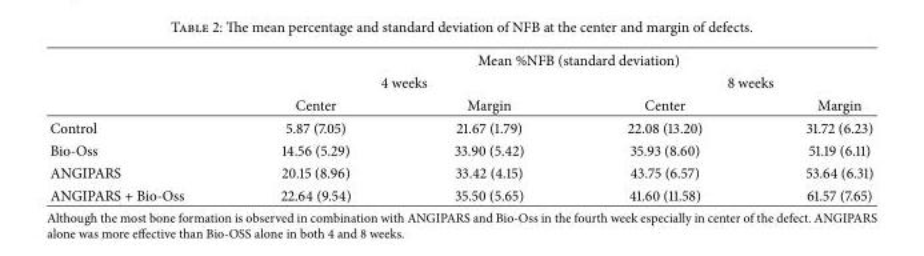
<table><thead><tr><td rowspan="3"></td><td colspan="4">Mean %NFB (standard deviation)</td></tr><tr><td colspan="2">4 weeks</td><td colspan="2">8 weeks</td></tr><tr><td>Center</td><td>Margin</td><td>Center</td><td>Margin</td></tr></thead><tbody><tr><td>Control</td><td>5.87 (7.05)</td><td>21.67 (1.79)</td><td>22.08 (13.20)</td><td>31.72 (6.23)</td></tr><tr><td>Bio-Oss</td><td>14.56 (5.29)</td><td>33.90 (5.42)</td><td>35.93 (8.60)</td><td>51.19 (6.11)</td></tr><tr><td>ANGIPARS</td><td>20.15 (8.96)</td><td>33.42 (4.15)</td><td>43.75 (6.57)</td><td>53.64 (6.31)</td></tr><tr><td>ANGIPARS + Bio-Oss</td><td>22.64 (9.54)</td><td>35.50 (5.65)</td><td>41.60 (11.58)</td><td>61.57 (7.65)</td></tr></tbody></table>